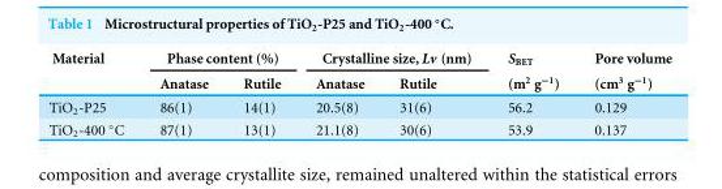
<table><thead><tr><td rowspan="2">Material</td><td colspan="2">Phase content (%)</td><td colspan="2">Crystalline size, Lv (nm)</td><td rowspan="2">S<sub>BET</sub> (m<sup>2</sup> g<sup>−1</sup>)</td><td rowspan="2">Pore volume (cm<sup>3</sup> g<sup>−1</sup>)</td></tr><tr><td>Anatase</td><td>Rutile</td><td>Anatase</td><td>Rutile</td></tr></thead><tbody><tr><td>TiO<sub>2</sub>-P25</td><td>86(1)</td><td>14(1)</td><td>20.5(8)</td><td>31(6)</td><td>56.2</td><td>0.129</td></tr><tr><td>TiO2-400 ◦C</td><td>87(1)</td><td>13(1)</td><td>21.1(8)</td><td>30(6)</td><td>53.9</td><td>0.137</td></tr></tbody></table>